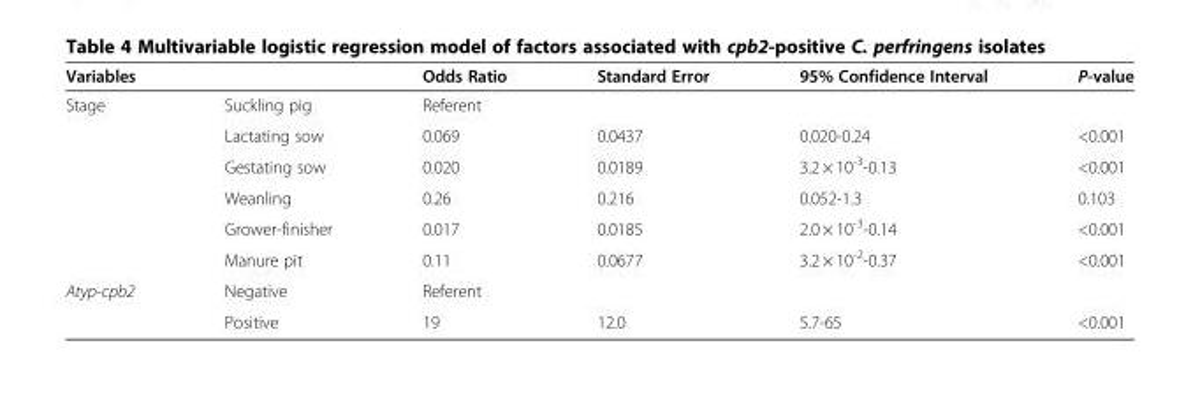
<table><thead><tr><td colspan="2">Variables</td><td>Odds Ratio</td><td>Standard Error</td><td>95% Confidence Interval</td><td>P-value</td></tr><tr><td>Stage</td><td>Suckling pig</td><td colspan="4">Referent</td></tr></thead><tbody><tr><td></td><td>Lactating sow</td><td>0.069</td><td>0.0437</td><td>0.020-0.24</td><td>&lt;0.001</td></tr><tr><td></td><td>Gestating sow</td><td>0.020</td><td>0.0189</td><td>3.2 × 10<sup>-3</sup>-0.13</td><td>&lt;0.001</td></tr><tr><td></td><td>Weanling</td><td>0.26</td><td>0.216</td><td>0.052-1.3</td><td>0.103</td></tr><tr><td></td><td>Grower-finisher</td><td>0.017</td><td>0.0185</td><td>2.0 × 10<sup>-3</sup>-0.14</td><td>&lt;0.001</td></tr><tr><td></td><td>Manure pit</td><td>0.11</td><td>0.0677</td><td>3.2 × 10<sup>-2</sup>-0.37</td><td>&lt;0.001</td></tr><tr><td rowspan="2">Atyp-cpb2</td><td>Negative</td><td colspan="4">Referent</td></tr><tr><td>Positive</td><td>19</td><td>12.0</td><td>5.7-65</td><td>&lt;0.001</td></tr></tbody></table>